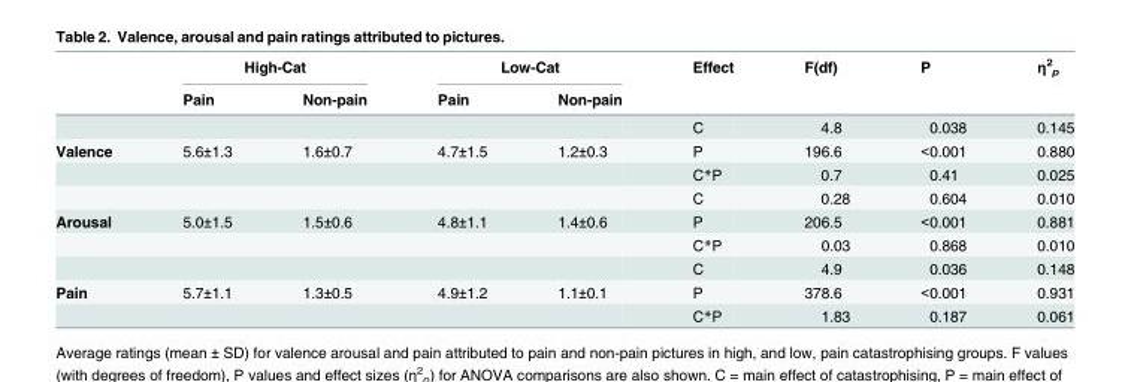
<table><thead><tr><td rowspan="2"></td><td colspan="2">High-Cat</td><td colspan="2">Low-Cat</td><td rowspan="2">Effect</td><td rowspan="2">F(df)</td><td rowspan="2">P</td><td rowspan="2">η<sup>2</sup> <sub>p</sub></td></tr><tr><td>Pain</td><td>Non-pain</td><td>Pain</td><td>Non-pain</td></tr></thead><tbody><tr><td></td><td></td><td></td><td></td><td></td><td>C</td><td>4.8</td><td>0.038</td><td>0.145</td></tr><tr><td rowspan="3">Valence</td><td>5.6±1.3</td><td>1.6±0.7</td><td>4.7±1.5</td><td>1.2±0.3</td><td>P</td><td>196.6</td><td>&lt;0.001</td><td>0.880</td></tr><tr><td></td><td></td><td></td><td></td><td>C*P</td><td>0.7</td><td>0.41</td><td>0.025</td></tr><tr><td></td><td></td><td></td><td></td><td>C</td><td>0.28</td><td>0.604</td><td>0.010</td></tr><tr><td rowspan="3">Arousal</td><td>5.0±1.5</td><td>1.5±0.6</td><td>4.8±1.1</td><td>1.4±0.6</td><td>P</td><td>206.5</td><td>&lt;0.001</td><td>0.881</td></tr><tr><td></td><td></td><td></td><td></td><td>C*P</td><td>0.03</td><td>0.868</td><td>0.010</td></tr><tr><td></td><td></td><td></td><td></td><td>C</td><td>4.9</td><td>0.036</td><td>0.148</td></tr><tr><td rowspan="2">Pain</td><td>5.7±1.1</td><td>1.3±0.5</td><td>4.9±1.2</td><td>1.1±0.1</td><td>P</td><td>378.6</td><td>&lt;0.001</td><td>0.931</td></tr><tr><td></td><td></td><td></td><td></td><td>C*P</td><td>1.83</td><td>0.187</td><td>0.061</td></tr></tbody></table>